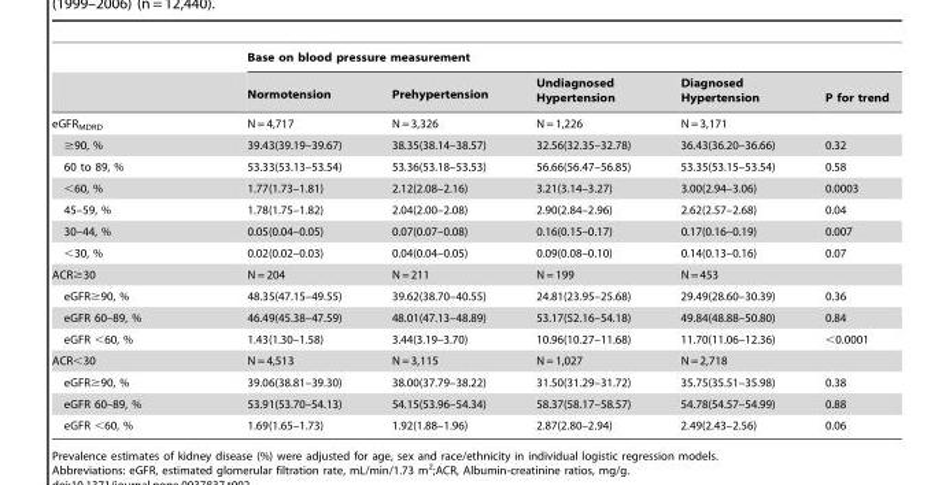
<table><thead><tr><td rowspan="2"></td><td colspan="5">Base on blood pressure measurement</td></tr><tr><td>Normotension</td><td>Prehypertension</td><td>Undiagnosed Hypertension</td><td>Diagnosed Hypertension</td><td>P for trend</td></tr></thead><tbody><tr><td>eGFR<sub>MDRD</sub></td><td>N = 4,717</td><td>N = 3,326</td><td>N = 1,226</td><td>N = 3,171</td><td></td></tr><tr><td>≥90, %</td><td>39.43(39.19–39.67)</td><td>38.35(38.14–38.57)</td><td>32.56(32.35–32.78)</td><td>36.43(36.20–36.66)</td><td>0.32</td></tr><tr><td>60 to 89, %</td><td>53.33(53.13–53.54)</td><td>53.36(53.18–53.53)</td><td>56.66(56.47–56.85)</td><td>53.35(53.15–53.54)</td><td>0.58</td></tr><tr><td>&lt;60, %</td><td>1.77(1.73–1.81)</td><td>2.12(2.08–2.16)</td><td>3.21(3.14–3.27)</td><td>3.00(2.94–3.06)</td><td>0.0003</td></tr><tr><td>45–59, %</td><td>1.78(1.75–1.82)</td><td>2.04(2.00–2.08)</td><td>2.90(2.84–2.96)</td><td>2.62(2.57–2.68)</td><td>0.04</td></tr><tr><td>30–44, %</td><td>0.05(0.04–0.05)</td><td>0.07(0.07–0.08)</td><td>0.16(0.15–0.17)</td><td>0.17(0.16–0.19)</td><td>0.007</td></tr><tr><td>&lt;30, %</td><td>0.02(0.02–0.03)</td><td>0.04(0.04–0.05)</td><td>0.09(0.08–0.10)</td><td>0.14(0.13–0.16)</td><td>0.07</td></tr><tr><td>ACR≥30</td><td>N = 204</td><td>N = 211</td><td>N = 199</td><td>N = 453</td><td></td></tr><tr><td>eGFR≥90, %</td><td>48.35(47.15–49.55)</td><td>39.62(38.70–40.55)</td><td>24.81(23.95–25.68)</td><td>29.49(28.60–30.39)</td><td>0.36</td></tr><tr><td>eGFR 60–89, %</td><td>46.49(45.38–47.59)</td><td>48.01(47.13–48.89)</td><td>53.17(52.16–54.18)</td><td>49.84(48.88–50.80)</td><td>0.84</td></tr><tr><td>eGFR &lt;60, %</td><td>1.43(1.30–1.58)</td><td>3.44(3.19–3.70)</td><td>10.96(10.27–11.68)</td><td>11.70(11.06–12.36)</td><td>&lt;0.0001</td></tr><tr><td>ACR&lt;30</td><td>N = 4,513</td><td>N = 3,115</td><td>N = 1,027</td><td>N = 2,718</td><td></td></tr><tr><td>eGFR≥90, %</td><td>39.06(38.81–39.30)</td><td>38.00(37.79–38.22)</td><td>31.50(31.29–31.72)</td><td>35.75(35.51–35.98)</td><td>0.38</td></tr><tr><td>eGFR 60–89, %</td><td>53.91(53.70–54.13)</td><td>54.15(53.96–54.34)</td><td>58.37(58.17–58.57)</td><td>54.78(54.57–54.99)</td><td>0.88</td></tr><tr><td>eGFR &lt;60, %</td><td>1.69(1.65–1.73)</td><td>1.92(1.88–1.96)</td><td>2.87(2.80–2.94)</td><td>2.49(2.43–2.56)</td><td>0.06</td></tr></tbody></table>